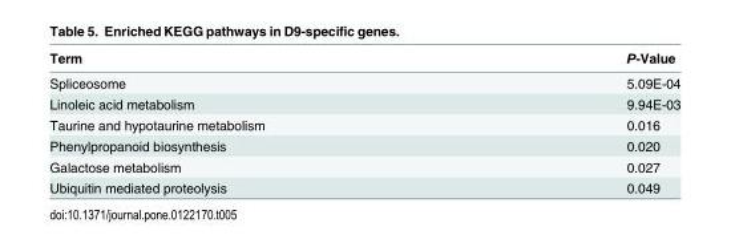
<table><thead><tr><td>Term</td><td>P-Value</td></tr></thead><tbody><tr><td>Spliceosome</td><td>5.09E-04</td></tr><tr><td>Linoleic acid metabolism</td><td>9.94E-03</td></tr><tr><td>Taurine and hypotaurine metabolism</td><td>0.016</td></tr><tr><td>Phenylpropanoid biosynthesis</td><td>0.020</td></tr><tr><td>Galactose metabolism</td><td>0.027</td></tr><tr><td>Ubiquitin mediated proteolysis</td><td>0.049</td></tr></tbody></table>